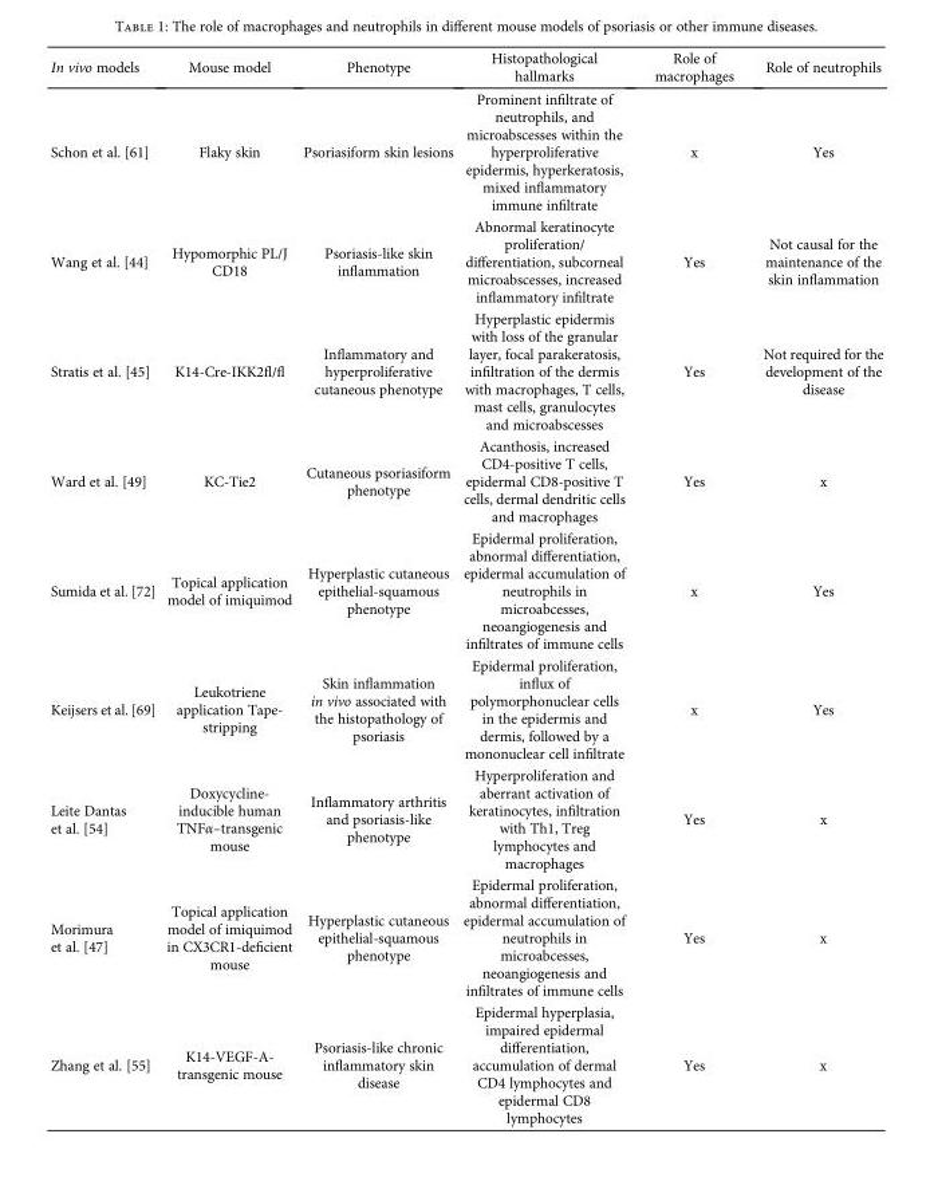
<table><thead><tr><td>In vivo models</td><td>Mouse model</td><td>Phenotype</td><td>Histopathological hallmarks</td><td>Role of macrophages</td><td>Role of neutrophils</td></tr></thead><tbody><tr><td>Schon et al. [61]</td><td>Flaky skin</td><td>Psoriasiform skin lesions</td><td>Prominent infiltrate of neutrophils, and microabscesses within the hyperproliferative epidermis, hyperkeratosis, mixed inflammatory immune infiltrate</td><td>x</td><td>Yes</td></tr><tr><td>Wang et al. [44]</td><td>Hypomorphic PL/J CD18</td><td>Psoriasis-like skin inflammation</td><td>Abnormal keratinocyte proliferation/ differentiation, subcorneal microabscesses, increased inflammatory infiltrate</td><td>Yes</td><td>Not causal for the maintenance of the skin inflammation</td></tr><tr><td>Stratis et al. [45]</td><td>K14-Cre-IKK2fl/fl</td><td>Inflammatory and hyperproliferative cutaneous phenotype</td><td>Hyperplastic epidermis with loss of the granular layer, focal parakeratosis, infiltration of the dermis with macrophages, T cells, mast cells, granulocytes and microabscesses</td><td>Yes</td><td>Not required for the development of the disease</td></tr><tr><td>Ward et al. [49]</td><td>KC-Tie2</td><td>Cutaneous psoriasiform phenotype</td><td>Acanthosis, increased CD4-positive T cells, epidermal CD8-positive T cells, dermal dendritic cells and macrophages</td><td>Yes</td><td>x</td></tr><tr><td>Sumida et al. [72]</td><td>Topical application model of imiquimod</td><td>Hyperplastic cutaneous epithelial-squamous phenotype</td><td>Epidermal proliferation, abnormal differentiation, epidermal accumulation of neutrophils in microabcesses, neoangiogenesis and infiltrates of immune cells</td><td>x</td><td>Yes</td></tr><tr><td>Keijsers et al. [69]</td><td>Leukotriene application Tape- stripping</td><td>Skin inflammation in vivo associated with the histopathology of psoriasis</td><td>Epidermal proliferation, influx of polymorphonuclear cells in the epidermis and dermis, followed by a mononuclear cell infiltrate</td><td>x</td><td>Yes</td></tr><tr><td>Leite Dantas et al. [54]</td><td>Doxycycline- inducible human TNFα–transgenic mouse</td><td>Inflammatory arthritis and psoriasis-like phenotype</td><td>Hyperproliferation and aberrant activation of keratinocytes, infiltration with Th1, Treg lymphocytes and macrophages</td><td>Yes</td><td>x</td></tr><tr><td>Morimura et al. [47]</td><td>Topical application model of imiquimod in CX3CR1-deficient mouse</td><td>Hyperplastic cutaneous epithelial-squamous phenotype</td><td>Epidermal proliferation, abnormal differentiation, epidermal accumulation of neutrophils in microabcesses, neoangiogenesis and infiltrates of immune cells</td><td>Yes</td><td>x</td></tr><tr><td>Zhang et al. [55]</td><td>K14-VEGF-A- transgenic mouse</td><td>Psoriasis-like chronic inflammatory skin disease</td><td>Epidermal hyperplasia, impaired epidermal differentiation, accumulation of dermal CD4 lymphocytes and epidermal CD8 lymphocytes</td><td>Yes</td><td>x</td></tr></tbody></table>